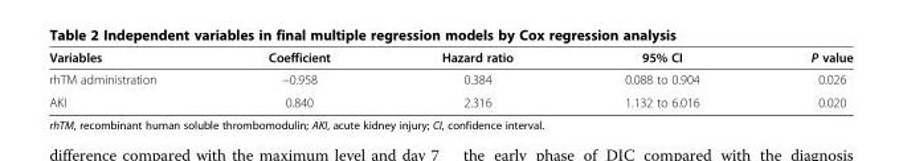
<table><thead><tr><td>Variables</td><td>Coefficient</td><td>Hazard ratio</td><td>95% CI</td><td>P value</td></tr></thead><tbody><tr><td>rhTM administration</td><td>−0.958</td><td>0.384</td><td>0.088 to 0.904</td><td>0.026</td></tr><tr><td>AKI</td><td>0.840</td><td>2.316</td><td>1.132 to 6.016</td><td>0.020</td></tr></tbody></table>